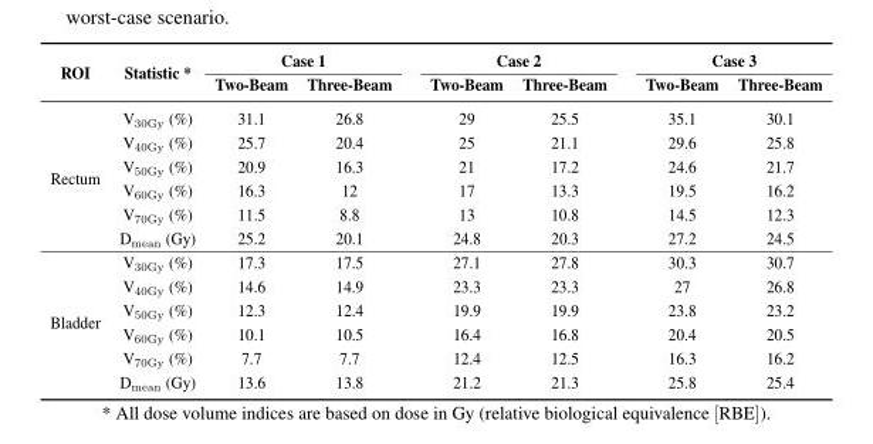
<table><thead><tr><td rowspan="2">ROI</td><td rowspan="2">Statistic *</td><td colspan="2">Case 1</td><td colspan="2">Case 2</td><td colspan="2">Case 3</td></tr><tr><td>Two-Beam</td><td>Three-Beam</td><td>Two-Beam</td><td>Three-Beam</td><td>Two-Beam</td><td>Three-Beam</td></tr></thead><tbody><tr><td rowspan="6">Rectum</td><td>V<sub>30Gy</sub> (%)</td><td>31.1</td><td>26.8</td><td>29</td><td>25.5</td><td>35.1</td><td>30.1</td></tr><tr><td>V<sub>40Gy</sub> (%)</td><td>25.7</td><td>20.4</td><td>25</td><td>21.1</td><td>29.6</td><td>25.8</td></tr><tr><td>V<sub>50Gy</sub> (%)</td><td>20.9</td><td>16.3</td><td>21</td><td>17.2</td><td>24.6</td><td>21.7</td></tr><tr><td>V<sub>60Gy</sub> (%)</td><td>16.3</td><td>12</td><td>17</td><td>13.3</td><td>19.5</td><td>16.2</td></tr><tr><td>V<sub>70Gy</sub> (%)</td><td>11.5</td><td>8.8</td><td>13</td><td>10.8</td><td>14.5</td><td>12.3</td></tr><tr><td>D<sub>mean</sub> (Gy)</td><td>25.2</td><td>20.1</td><td>24.8</td><td>20.3</td><td>27.2</td><td>24.5</td></tr><tr><td rowspan="6">Bladder</td><td>V<sub>30Gy</sub> (%)</td><td>17.3</td><td>17.5</td><td>27.1</td><td>27.8</td><td>30.3</td><td>30.7</td></tr><tr><td>V<sub>40Gy</sub> (%)</td><td>14.6</td><td>14.9</td><td>23.3</td><td>23.3</td><td>27</td><td>26.8</td></tr><tr><td>V<sub>50Gy</sub> (%)</td><td>12.3</td><td>12.4</td><td>19.9</td><td>19.9</td><td>23.8</td><td>23.2</td></tr><tr><td>V<sub>60Gy</sub> (%)</td><td>10.1</td><td>10.5</td><td>16.4</td><td>16.8</td><td>20.4</td><td>20.5</td></tr><tr><td>V<sub>70Gy</sub> (%)</td><td>7.7</td><td>7.7</td><td>12.4</td><td>12.5</td><td>16.3</td><td>16.2</td></tr><tr><td>D<sub>mean</sub> (Gy)</td><td>13.6</td><td>13.8</td><td>21.2</td><td>21.3</td><td>25.8</td><td>25.4</td></tr></tbody></table>